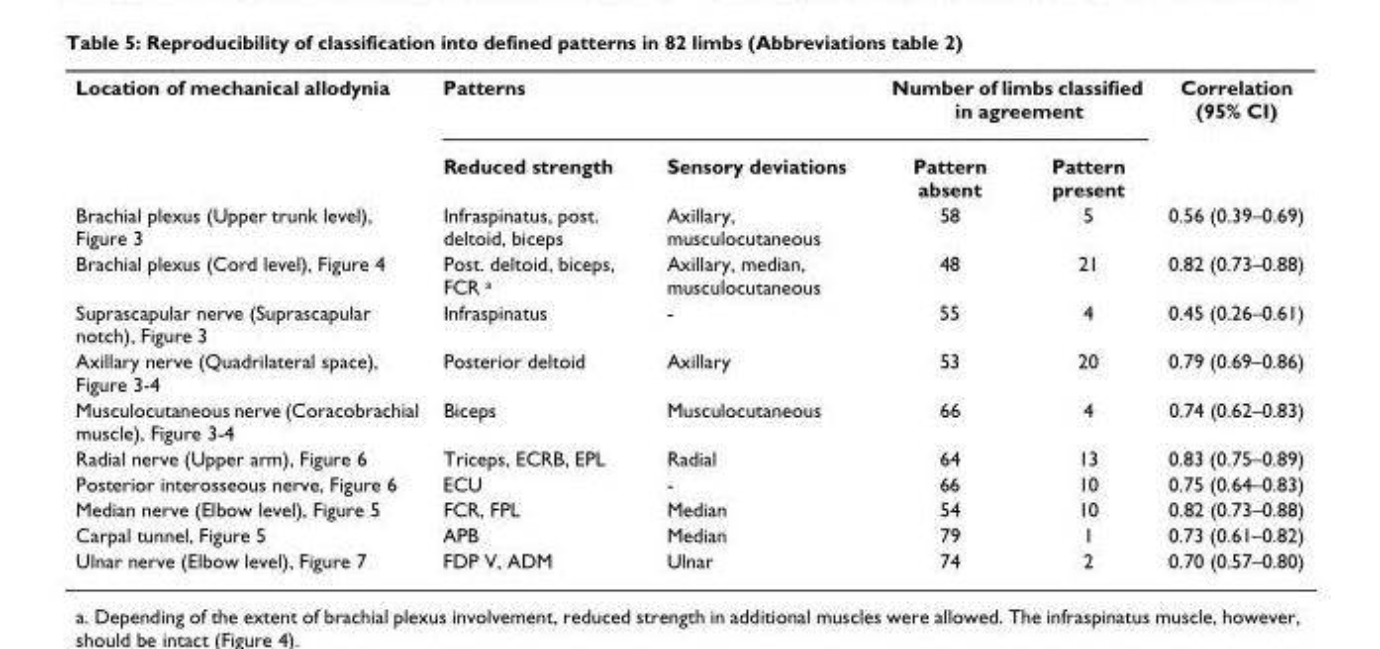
<table><tbody><tr><td rowspan="2">Location of mechanical allodynia</td><td colspan="2">Patterns</td><td colspan="2">Number of limbs classified in agreement</td><td>Correlation (95% CI)</td></tr><tr><td>Reduced strength</td><td>Sensory deviations</td><td>Pattern absent</td><td>Pattern present</td><td></td></tr><tr><td>Brachial plexus (Upper trunk level), Figure 3</td><td>Infraspinatus, post. deltoid, biceps</td><td>Axillary, musculocutaneous</td><td>58</td><td>5</td><td>0.56 (0.39–0.69)</td></tr><tr><td>Brachial plexus (Cord level), Figure 4</td><td>Post. deltoid, biceps, FCR a</td><td>Axillary, median, musculocutaneous</td><td>48</td><td>21</td><td>0.82 (0.73–0.88)</td></tr><tr><td>Suprascapular nerve (Suprascapular notch), Figure 3</td><td>Infraspinatus</td><td>-</td><td>55</td><td>4</td><td>0.45 (0.26–0.61)</td></tr><tr><td>Axillary nerve (Quadrilateral space), Figure 3-4</td><td>Posterior deltoid</td><td>Axillary</td><td>53</td><td>20</td><td>0.79 (0.69–0.86)</td></tr><tr><td>Musculocutaneous nerve (Coracobrachial muscle), Figure 3-4</td><td>Biceps</td><td>Musculocutaneous</td><td>66</td><td>4</td><td>0.74 (0.62–0.83)</td></tr><tr><td>Radial nerve (Upper arm), Figure 6</td><td>Triceps, ECRB, EPL</td><td>Radial</td><td>64</td><td>13</td><td>0.83 (0.75–0.89)</td></tr><tr><td>Posterior interosseous nerve, Figure 6</td><td>ECU</td><td>-</td><td>66</td><td>10</td><td>0.75 (0.64–0.83)</td></tr><tr><td>Median nerve (Elbow level), Figure 5</td><td>FCR, FPL</td><td>Median</td><td>54</td><td>10</td><td>0.82 (0.73–0.88)</td></tr><tr><td>Carpal tunnel, Figure 5</td><td>APB</td><td>Median</td><td>79</td><td>1</td><td>0.73 (0.61–0.82)</td></tr><tr><td>Ulnar nerve (Elbow level), Figure 7</td><td>FDP V, ADM</td><td>Ulnar</td><td>74</td><td>2</td><td>0.70 (0.57–0.80)</td></tr></tbody></table>